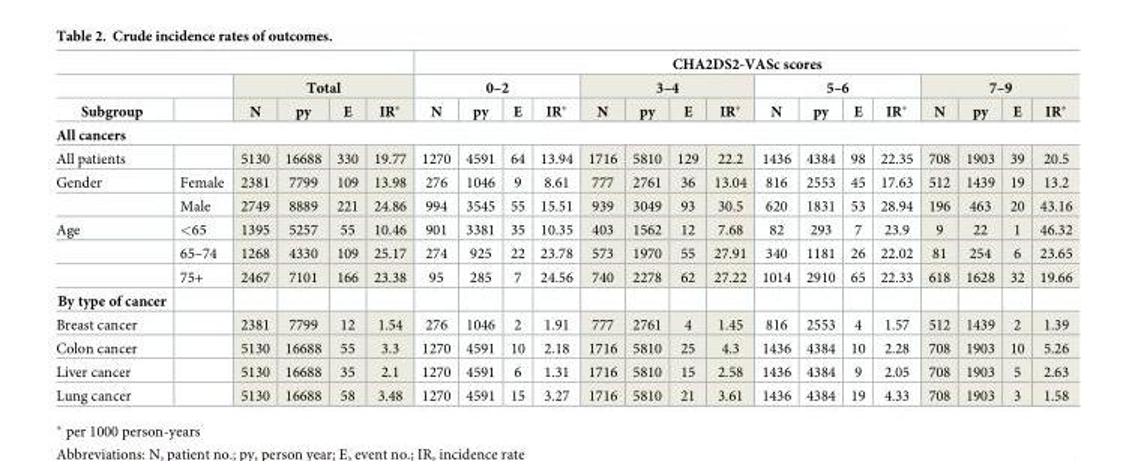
<table><thead><tr><td rowspan="3">Subgroup</td><td rowspan="3"></td><td></td><td></td><td></td><td></td><td colspan="16">CHA2DS2-VASc scores</td></tr><tr><td colspan="4">Total</td><td colspan="4">0–2</td><td colspan="4">3–4</td><td colspan="4">5–6</td><td colspan="4">7–9</td></tr><tr><td>N</td><td>py</td><td>E</td><td>IR*</td><td>N</td><td>py</td><td>E</td><td>IR*</td><td>N</td><td>py</td><td>E</td><td>IR*</td><td>N</td><td>py</td><td>E</td><td>IR*</td><td>N</td><td>py</td><td>E</td><td>IR*</td></tr></thead><tbody><tr><td colspan="22">All cancers</td></tr><tr><td>All patients</td><td></td><td>5130</td><td>16688</td><td>330</td><td>19.77</td><td>1270</td><td>4591</td><td>64</td><td>13.94</td><td>1716</td><td>5810</td><td>129</td><td>22.2</td><td>1436</td><td>4384</td><td>98</td><td>22.35</td><td>708</td><td>1903</td><td>39</td><td>20.5</td></tr><tr><td rowspan="2">Gender</td><td>Female</td><td>2381</td><td>7799</td><td>109</td><td>13.98</td><td>276</td><td>1046</td><td>9</td><td>8.61</td><td>777</td><td>2761</td><td>36</td><td>13.04</td><td>816</td><td>2553</td><td>45</td><td>17.63</td><td>512</td><td>1439</td><td>19</td><td>13.2</td></tr><tr><td>Male</td><td>2749</td><td>8889</td><td>221</td><td>24.86</td><td>994</td><td>3545</td><td>55</td><td>15.51</td><td>939</td><td>3049</td><td>93</td><td>30.5</td><td>620</td><td>1831</td><td>53</td><td>28.94</td><td>196</td><td>463</td><td>20</td><td>43.16</td></tr><tr><td rowspan="3">Age</td><td>&lt;65</td><td>1395</td><td>5257</td><td>55</td><td>10.46</td><td>901</td><td>3381</td><td>35</td><td>10.35</td><td>403</td><td>1562</td><td>12</td><td>7.68</td><td>82</td><td>293</td><td>7</td><td>23.9</td><td>9</td><td>22</td><td>1</td><td>46.32</td></tr><tr><td>65–74</td><td>1268</td><td>4330</td><td>109</td><td>25.17</td><td>274</td><td>925</td><td>22</td><td>23.78</td><td>573</td><td>1970</td><td>55</td><td>27.91</td><td>340</td><td>1181</td><td>26</td><td>22.02</td><td>81</td><td>254</td><td>6</td><td>23.65</td></tr><tr><td>75+</td><td>2467</td><td>7101</td><td>166</td><td>23.38</td><td>95</td><td>285</td><td>7</td><td>24.56</td><td>740</td><td>2278</td><td>62</td><td>27.22</td><td>1014</td><td>2910</td><td>65</td><td>22.33</td><td>618</td><td>1628</td><td>32</td><td>19.66</td></tr><tr><td colspan="22">By type of cancer</td></tr><tr><td>Breast cancer</td><td></td><td>2381</td><td>7799</td><td>12</td><td>1.54</td><td>276</td><td>1046</td><td>2</td><td>1.91</td><td>777</td><td>2761</td><td>4</td><td>1.45</td><td>816</td><td>2553</td><td>4</td><td>1.57</td><td>512</td><td>1439</td><td>2</td><td>1.39</td></tr><tr><td>Colon cancer</td><td></td><td>5130</td><td>16688</td><td>55</td><td>3.3</td><td>1270</td><td>4591</td><td>10</td><td>2.18</td><td>1716</td><td>5810</td><td>25</td><td>4.3</td><td>1436</td><td>4384</td><td>10</td><td>2.28</td><td>708</td><td>1903</td><td>10</td><td>5.26</td></tr><tr><td>Liver cancer</td><td></td><td>5130</td><td>16688</td><td>35</td><td>2.1</td><td>1270</td><td>4591</td><td>6</td><td>1.31</td><td>1716</td><td>5810</td><td>15</td><td>2.58</td><td>1436</td><td>4384</td><td>9</td><td>2.05</td><td>708</td><td>1903</td><td>5</td><td>2.63</td></tr><tr><td>Lung cancer</td><td></td><td>5130</td><td>16688</td><td>58</td><td>3.48</td><td>1270</td><td>4591</td><td>15</td><td>3.27</td><td>1716</td><td>5810</td><td>21</td><td>3.61</td><td>1436</td><td>4384</td><td>19</td><td>4.33</td><td>708</td><td>1903</td><td>3</td><td>1.58</td></tr></tbody></table>